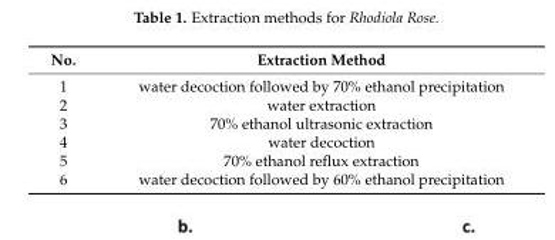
<table><thead><tr><td>No.</td><td>Extraction Method</td></tr></thead><tbody><tr><td>1</td><td>water decoction followed by 70% ethanol precipitation</td></tr><tr><td>2</td><td>water extraction</td></tr><tr><td>3</td><td>70% ethanol ultrasonic extraction</td></tr><tr><td>4</td><td>water decoction</td></tr><tr><td>5</td><td>70% ethanol reflux extraction</td></tr><tr><td>6</td><td>water decoction followed by 60% ethanol precipitation</td></tr></tbody></table>